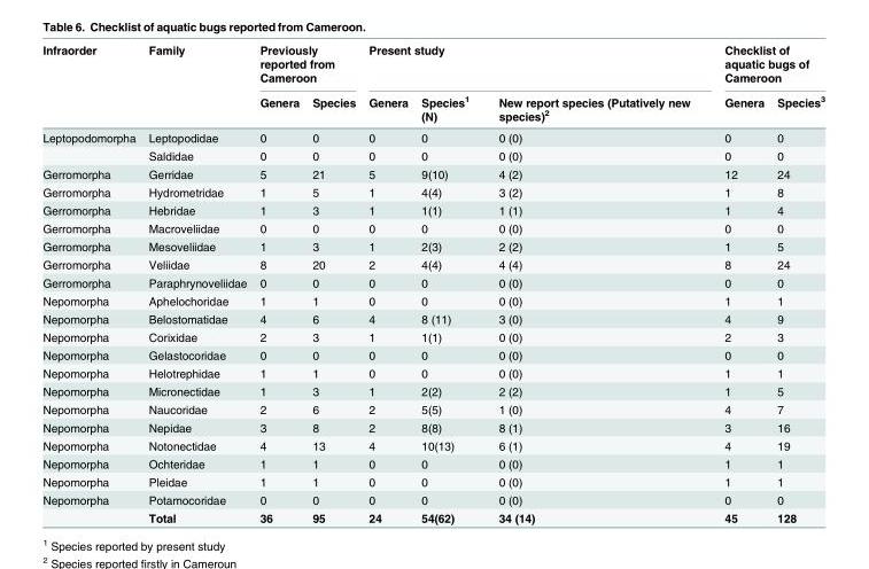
<table><thead><tr><td rowspan="2">Infraorder</td><td rowspan="2">Family</td><td colspan="2">Previously reported from Cameroon</td><td colspan="3">Present study</td><td colspan="2">Checklist of aquatic bugs of Cameroon</td></tr><tr><td>Genera</td><td>Species</td><td>Genera</td><td>Species<sup>1</sup> (N)</td><td>New report species (Putatively new species)<sup>2</sup></td><td>Genera</td><td>Species<sup>3</sup></td></tr></thead><tbody><tr><td rowspan="2">Leptopodomorpha</td><td>Leptopodidae</td><td>0</td><td>0</td><td>0</td><td>0</td><td>0 (0)</td><td>0</td><td>0</td></tr><tr><td>Saldidae</td><td>0</td><td>0</td><td>0</td><td>0</td><td>0 (0)</td><td>0</td><td>0</td></tr><tr><td>Gerromorpha</td><td>Gerridae</td><td>5</td><td>21</td><td>5</td><td>9(10)</td><td>4 (2)</td><td>12</td><td>24</td></tr><tr><td>Gerromorpha</td><td>Hydrometridae</td><td>1</td><td>5</td><td>1</td><td>4(4)</td><td>3 (2)</td><td>1</td><td>8</td></tr><tr><td>Gerromorpha</td><td>Hebridae</td><td>1</td><td>3</td><td>1</td><td>1(1)</td><td>1 (1)</td><td>1</td><td>4</td></tr><tr><td>Gerromorpha</td><td>Macroveliidae</td><td>0</td><td>0</td><td>0</td><td>0</td><td>0 (0)</td><td>0</td><td>0</td></tr><tr><td>Gerromorpha</td><td>Mesoveliidae</td><td>1</td><td>3</td><td>1</td><td>2(3)</td><td>2 (2)</td><td>1</td><td>5</td></tr><tr><td>Gerromorpha</td><td>Veliidae</td><td>8</td><td>20</td><td>2</td><td>4(4)</td><td>4 (4)</td><td>8</td><td>24</td></tr><tr><td>Gerromorpha</td><td>Paraphrynoveliidae</td><td>0</td><td>0</td><td>0</td><td>0</td><td>0 (0)</td><td>0</td><td>0</td></tr><tr><td>Nepomorpha</td><td>Aphelochoridae</td><td>1</td><td>1</td><td>0</td><td>0</td><td>0 (0)</td><td>1</td><td>1</td></tr><tr><td>Nepomorpha</td><td>Belostomatidae</td><td>4</td><td>6</td><td>4</td><td>8 (11)</td><td>3 (0)</td><td>4</td><td>9</td></tr><tr><td>Nepomorpha</td><td>Corixidae</td><td>2</td><td>3</td><td>1</td><td>1(1)</td><td>0 (0)</td><td>2</td><td>3</td></tr><tr><td>Nepomorpha</td><td>Gelastocoridae</td><td>0</td><td>0</td><td>0</td><td>0</td><td>0 (0)</td><td>0</td><td>0</td></tr><tr><td>Nepomorpha</td><td>Helotrephidae</td><td>1</td><td>1</td><td>0</td><td>0</td><td>0 (0)</td><td>1</td><td>1</td></tr><tr><td>Nepomorpha</td><td>Micronectidae</td><td>1</td><td>3</td><td>1</td><td>2(2)</td><td>2 (2)</td><td>1</td><td>5</td></tr><tr><td>Nepomorpha</td><td>Naucoridae</td><td>2</td><td>6</td><td>2</td><td>5(5)</td><td>1 (0)</td><td>4</td><td>7</td></tr><tr><td>Nepomorpha</td><td>Nepidae</td><td>3</td><td>8</td><td>2</td><td>8(8)</td><td>8 (1)</td><td>3</td><td>16</td></tr><tr><td>Nepomorpha</td><td>Notonectidae</td><td>4</td><td>13</td><td>4</td><td>10(13)</td><td>6 (1)</td><td>4</td><td>19</td></tr><tr><td>Nepomorpha</td><td>Ochteridae</td><td>1</td><td>1</td><td>0</td><td>0</td><td>0 (0)</td><td>1</td><td>1</td></tr><tr><td>Nepomorpha</td><td>Pleidae</td><td>1</td><td>1</td><td>0</td><td>0</td><td>0 (0)</td><td>1</td><td>1</td></tr><tr><td rowspan="2">Nepomorpha</td><td>Potamocoridae</td><td>0</td><td>0</td><td>0</td><td>0</td><td>0 (0)</td><td>0</td><td>0</td></tr><tr><td>Total</td><td>36</td><td>95</td><td>24</td><td>54(62)</td><td>34 (14)</td><td>45</td><td>128</td></tr></tbody></table>